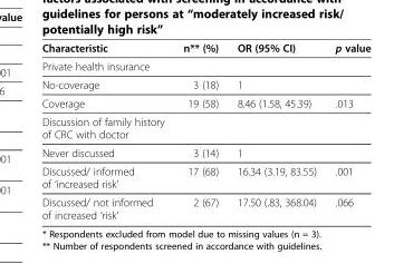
<table><thead><tr><td>Characteristic</td><td>n** (%)</td><td>OR (95% CI)</td><td>p value</td></tr></thead><tbody><tr><td colspan="4">Private health insurance</td></tr><tr><td>No-coverage</td><td>3 (18)</td><td>1</td><td></td></tr><tr><td>Coverage</td><td>19 (58)</td><td>8.46 (1.58, 45.39)</td><td>.013</td></tr><tr><td colspan="4">Discussion of family history of CRC with doctor</td></tr><tr><td>Never discussed</td><td>3 (14)</td><td>1</td><td></td></tr><tr><td>Discussed/ informed of ‘increased risk’</td><td>17 (68)</td><td>16.34 (3.19, 83.55)</td><td>.001</td></tr><tr><td>Discussed/ not informed of increased ‘risk’</td><td>2 (67)</td><td>17.50 (.83, 368.04)</td><td>.066</td></tr></tbody></table>